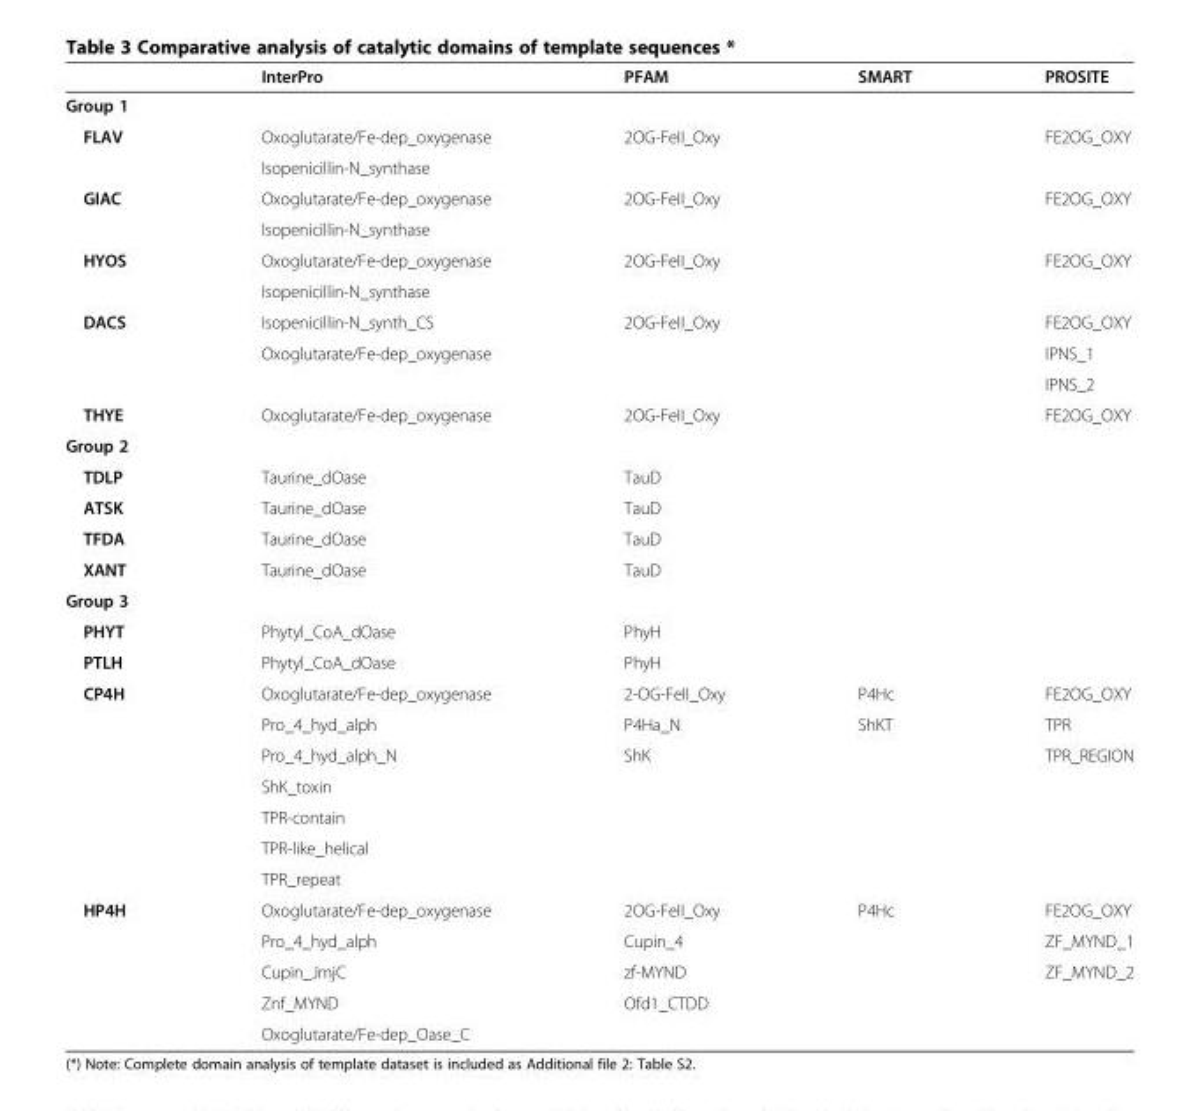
<table><thead><tr><td></td><td>InterPro</td><td>PFAM</td><td>SMART</td><td>PROSITE</td></tr></thead><tbody><tr><td colspan="5">Group 1</td></tr><tr><td rowspan="2">FLAV</td><td>Oxoglutarate/Fe-dep_oxygenase</td><td>2OG-FeII_Oxy</td><td></td><td>FE2OG_OXY</td></tr><tr><td>Isopenicillin-N_synthase</td><td></td><td></td><td></td></tr><tr><td rowspan="2">GIAC</td><td>Oxoglutarate/Fe-dep_oxygenase</td><td>2OG-FeII_Oxy</td><td></td><td>FE2OG_OXY</td></tr><tr><td>Isopenicillin-N_synthase</td><td></td><td></td><td></td></tr><tr><td rowspan="2">HYOS</td><td>Oxoglutarate/Fe-dep_oxygenase</td><td>2OG-FeII_Oxy</td><td></td><td>FE2OG_OXY</td></tr><tr><td>Isopenicillin-N_synthase</td><td></td><td></td><td></td></tr><tr><td rowspan="3">DACS</td><td>Isopenicillin-N_synth_CS</td><td>2OG-FeII_Oxy</td><td></td><td>FE2OG_OXY</td></tr><tr><td>Oxoglutarate/Fe-dep_oxygenase</td><td></td><td></td><td>IPNS_1</td></tr><tr><td></td><td></td><td></td><td>IPNS_2</td></tr><tr><td>THYE</td><td>Oxoglutarate/Fe-dep_oxygenase</td><td>2OG-FeII_Oxy</td><td></td><td>FE2OG_OXY</td></tr><tr><td colspan="5">Group 2</td></tr><tr><td>TDLP</td><td>Taurine_dOase</td><td>TauD</td><td></td><td></td></tr><tr><td>ATSK</td><td>Taurine_dOase</td><td>TauD</td><td></td><td></td></tr><tr><td>TFDA</td><td>Taurine_dOase</td><td>TauD</td><td></td><td></td></tr><tr><td>XANT</td><td>Taurine_dOase</td><td>TauD</td><td></td><td></td></tr><tr><td colspan="5">Group 3</td></tr><tr><td>PHYT</td><td>Phytyl_CoA_dOase</td><td>PhyH</td><td></td><td></td></tr><tr><td>PTLH</td><td>Phytyl_CoA_dOase</td><td>PhyH</td><td></td><td></td></tr><tr><td rowspan="7">CP4H</td><td>Oxoglutarate/Fe-dep_oxygenase</td><td>2-OG-FeII_Oxy</td><td>P4Hc</td><td>FE2OG_OXY</td></tr><tr><td>Pro_4_hyd_alph</td><td>P4Ha_N</td><td>ShKT</td><td>TPR</td></tr><tr><td>Pro_4_hyd_alph_N</td><td>ShK</td><td></td><td>TPR_REGION</td></tr><tr><td>ShK_toxin</td><td></td><td></td><td></td></tr><tr><td>TPR-contain</td><td></td><td></td><td></td></tr><tr><td>TPR-like_helical</td><td></td><td></td><td></td></tr><tr><td>TPR_repeat</td><td></td><td></td><td></td></tr><tr><td rowspan="5">HP4H</td><td>Oxoglutarate/Fe-dep_oxygenase</td><td>2OG-FeII_Oxy</td><td>P4Hc</td><td>FE2OG_OXY</td></tr><tr><td>Pro_4_hyd_alph</td><td>Cupin_4</td><td></td><td>ZF_MYND_1</td></tr><tr><td>Cupin_JmjC</td><td>zf-MYND</td><td></td><td>ZF_MYND_2</td></tr><tr><td>Znf_MYND</td><td>Ofd1_CTDD</td><td></td><td></td></tr><tr><td>Oxoglutarate/Fe-dep_Oase_C</td><td></td><td></td><td></td></tr></tbody></table>